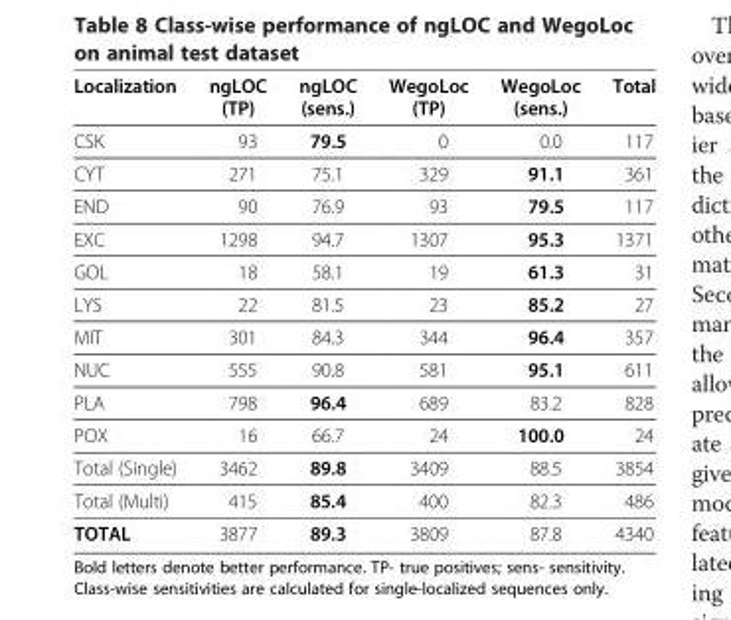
<table><thead><tr><td>Localization</td><td>ngLOC (TP)</td><td>ngLOC (sens.)</td><td>WegoLoc (TP)</td><td>WegoLoc (sens.)</td><td>Total</td></tr></thead><tbody><tr><td>CSK</td><td>93</td><td>79.5</td><td>0</td><td>0.0</td><td>117</td></tr><tr><td>CYT</td><td>271</td><td>75.1</td><td>329</td><td>91.1</td><td>361</td></tr><tr><td>END</td><td>90</td><td>76.9</td><td>93</td><td>79.5</td><td>117</td></tr><tr><td>EXC</td><td>1298</td><td>94.7</td><td>1307</td><td>95.3</td><td>1371</td></tr><tr><td>GOL</td><td>18</td><td>58.1</td><td>19</td><td>61.3</td><td>31</td></tr><tr><td>LYS</td><td>22</td><td>81.5</td><td>23</td><td>85.2</td><td>27</td></tr><tr><td>MIT</td><td>301</td><td>84.3</td><td>344</td><td>96.4</td><td>357</td></tr><tr><td>NUC</td><td>555</td><td>90.8</td><td>581</td><td>95.1</td><td>611</td></tr><tr><td>PLA</td><td>798</td><td>96.4</td><td>689</td><td>83.2</td><td>828</td></tr><tr><td>POX</td><td>16</td><td>66.7</td><td>24</td><td>100.0</td><td>24</td></tr><tr><td>Total (Single)</td><td>3462</td><td>89.8</td><td>3409</td><td>88.5</td><td>3854</td></tr><tr><td>Total (Multi)</td><td>415</td><td>85.4</td><td>400</td><td>82.3</td><td>486</td></tr><tr><td>TOTAL</td><td>3877</td><td>89.3</td><td>3809</td><td>87.8</td><td>4340</td></tr></tbody></table>